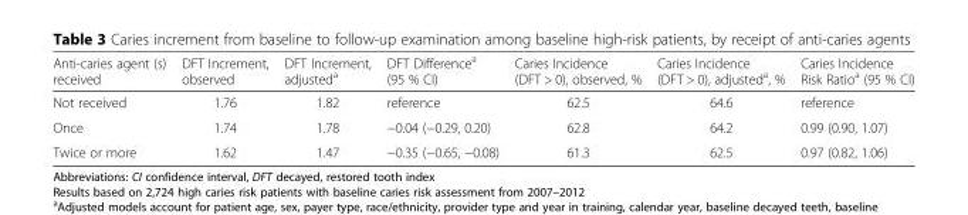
<table><thead><tr><td>Anti-caries agent (s) received</td><td>DFT Increment, observed</td><td>DFT Increment, adjusted<sup>a</sup></td><td>DFT Difference<sup>a</sup> (95 % CI)</td><td>Caries Incidence (DFT &gt; 0), observed, %</td><td>Caries Incidence (DFT &gt; 0), adjusted<sup>a</sup>, %</td><td>Caries Incidence Risk Ratio<sup>a</sup> (95 % CI)</td></tr></thead><tbody><tr><td>Not received</td><td>1.76</td><td>1.82</td><td>reference</td><td>62.5</td><td>64.6</td><td>reference</td></tr><tr><td>Once</td><td>1.74</td><td>1.78</td><td>−0.04 (−0.29, 0.20)</td><td>62.8</td><td>64.2</td><td>0.99 (0.90, 1.07)</td></tr><tr><td>Twice or more</td><td>1.62</td><td>1.47</td><td>−0.35 (−0.65, −0.08)</td><td>61.3</td><td>62.5</td><td>0.97 (0.82, 1.06)</td></tr></tbody></table>